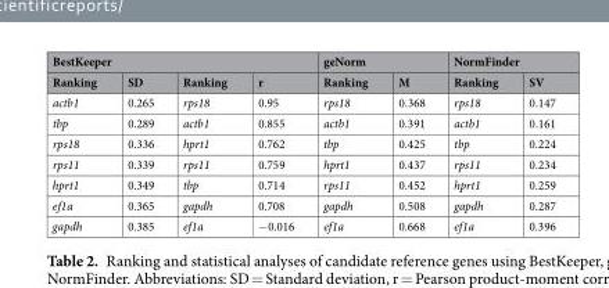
<table><thead><tr><td colspan="4">BestKeeper</td><td colspan="2">geNorm</td><td colspan="2">NormFinder</td></tr><tr><td>Ranking</td><td>SD</td><td>Ranking</td><td>r</td><td>Ranking</td><td>M</td><td>Ranking</td><td>SV</td></tr></thead><tbody><tr><td>actb1</td><td>0.265</td><td>rps18</td><td>0.95</td><td>rps18</td><td>0.368</td><td>rps18</td><td>0.147</td></tr><tr><td>tbp</td><td>0.289</td><td>actb1</td><td>0.855</td><td>actb1</td><td>0.391</td><td>actb1</td><td>0.161</td></tr><tr><td>rps18</td><td>0.336</td><td>hprt1</td><td>0.762</td><td>tbp</td><td>0.425</td><td>tbp</td><td>0.224</td></tr><tr><td>rps11</td><td>0.339</td><td>rps11</td><td>0.759</td><td>hprt1</td><td>0.437</td><td>rps11</td><td>0.234</td></tr><tr><td>hprt1</td><td>0.349</td><td>tbp</td><td>0.714</td><td>rps11</td><td>0.452</td><td>hprt1</td><td>0.259</td></tr><tr><td>ef1a</td><td>0.365</td><td>gapdh</td><td>0.708</td><td>gapdh</td><td>0.508</td><td>gapdh</td><td>0.287</td></tr><tr><td>gapdh</td><td>0.385</td><td>ef1a</td><td>−0.016</td><td>ef1a</td><td>0.668</td><td>ef1a</td><td>0.396</td></tr></tbody></table>